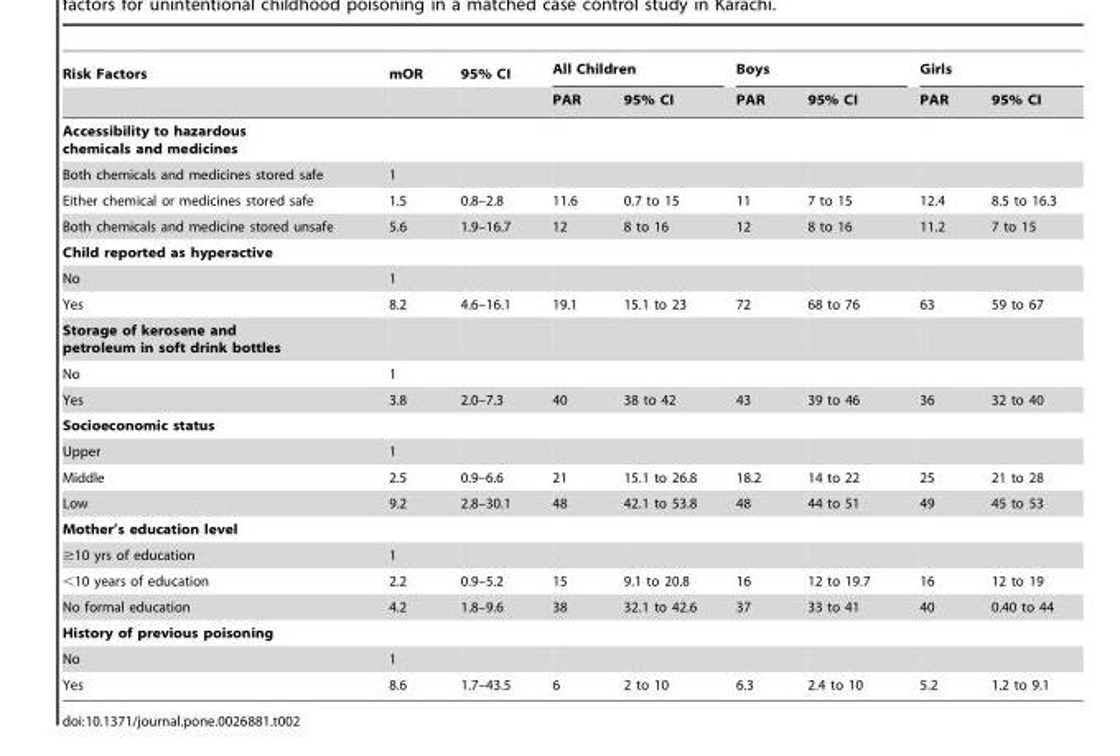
<table><thead><tr><td rowspan="2">Risk Factors</td><td rowspan="2">mOR</td><td rowspan="2">95% CI</td><td colspan="2">All Children</td><td colspan="2">Boys</td><td colspan="2">Girls</td></tr><tr><td>PAR</td><td>95% CI</td><td>PAR</td><td>95% CI</td><td>PAR</td><td>95% CI</td></tr></thead><tbody><tr><td colspan="9">Accessibility to hazardous chemicals and medicines</td></tr><tr><td>Both chemicals and medicines stored safe</td><td>1</td><td></td><td></td><td></td><td></td><td></td><td></td><td></td></tr><tr><td>Either chemical or medicines stored safe</td><td>1.5</td><td>0.8–2.8</td><td>11.6</td><td>0.7 to 15</td><td>11</td><td>7 to 15</td><td>12.4</td><td>8.5 to 16.3</td></tr><tr><td>Both chemicals and medicine stored unsafe</td><td>5.6</td><td>1.9–16.7</td><td>12</td><td>8 to 16</td><td>12</td><td>8 to 16</td><td>11.2</td><td>7 to 15</td></tr><tr><td colspan="9">Child reported as hyperactive</td></tr><tr><td>No</td><td>1</td><td></td><td></td><td></td><td></td><td></td><td></td><td></td></tr><tr><td>Yes</td><td>8.2</td><td>4.6–16.1</td><td>19.1</td><td>15.1 to 23</td><td>72</td><td>68 to 76</td><td>63</td><td>59 to 67</td></tr><tr><td colspan="9">Storage of kerosene and petroleum in soft drink bottles</td></tr><tr><td>No</td><td>1</td><td></td><td></td><td></td><td></td><td></td><td></td><td></td></tr><tr><td>Yes</td><td>3.8</td><td>2.0–7.3</td><td>40</td><td>38 to 42</td><td>43</td><td>39 to 46</td><td>36</td><td>32 to 40</td></tr><tr><td colspan="9">Socioeconomic status</td></tr><tr><td>Upper</td><td>1</td><td></td><td></td><td></td><td></td><td></td><td></td><td></td></tr><tr><td>Middle</td><td>2.5</td><td>0.9–6.6</td><td>21</td><td>15.1 to 26.8</td><td>18.2</td><td>14 to 22</td><td>25</td><td>21 to 28</td></tr><tr><td>Low</td><td>9.2</td><td>2.8–30.1</td><td>48</td><td>42.1 to 53.8</td><td>48</td><td>44 to 51</td><td>49</td><td>45 to 53</td></tr><tr><td colspan="9">Mother’s education level</td></tr><tr><td>≥10 yrs of education</td><td>1</td><td></td><td></td><td></td><td></td><td></td><td></td><td></td></tr><tr><td>&lt;10 years of education</td><td>2.2</td><td>0.9–5.2</td><td>15</td><td>9.1 to 20.8</td><td>16</td><td>12 to 19.7</td><td>16</td><td>12 to 19</td></tr><tr><td>No formal education</td><td>4.2</td><td>1.8–9.6</td><td>38</td><td>32.1 to 42.6</td><td>37</td><td>33 to 41</td><td>40</td><td>0.40 to 44</td></tr><tr><td colspan="9">History of previous poisoning</td></tr><tr><td>No</td><td>1</td><td></td><td></td><td></td><td></td><td></td><td></td><td></td></tr><tr><td>Yes</td><td>8.6</td><td>1.7–43.5</td><td>6</td><td>2 to 10</td><td>6.3</td><td>2.4 to 10</td><td>5.2</td><td>1.2 to 9.1</td></tr></tbody></table>